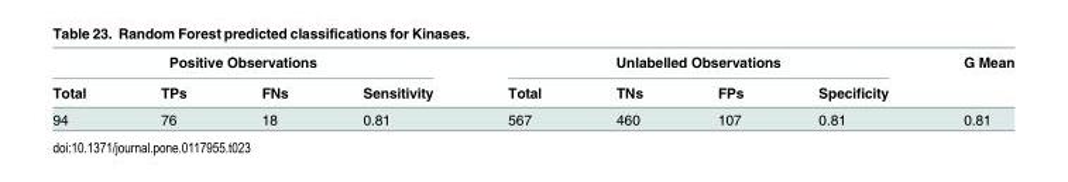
<table><thead><tr><td colspan="4">Positive Observations</td><td colspan="4">Unlabelled Observations</td><td rowspan="2">G Mean</td></tr><tr><td>Total</td><td>TPs</td><td>FNs</td><td>Sensitivity</td><td>Total</td><td>TNs</td><td>FPs</td><td>Specificity</td></tr></thead><tbody><tr><td>94</td><td>76</td><td>18</td><td>0.81</td><td>567</td><td>460</td><td>107</td><td>0.81</td><td>0.81</td></tr></tbody></table>